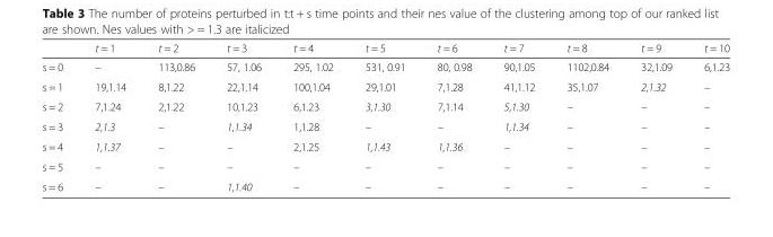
<table><thead><tr><td></td><td>t = 1</td><td>t = 2</td><td>t = 3</td><td>t = 4</td><td>t = 5</td><td>t = 6</td><td>t = 7</td><td>t = 8</td><td>t = 9</td><td>t = 10</td></tr></thead><tbody><tr><td>s = 0</td><td>–</td><td>113,0.86</td><td>57, 1.06</td><td>295, 1.02</td><td>531, 0.91</td><td>80, 0.98</td><td>90,1.05</td><td>1102,0.84</td><td>32,1.09</td><td>6,1.23</td></tr><tr><td>s = 1</td><td>19,1.14</td><td>8,1.22</td><td>22,1.14</td><td>100,1.04</td><td>29,1.01</td><td>7,1.28</td><td>41,1.12</td><td>35,1.07</td><td>2,1.32</td><td>–</td></tr><tr><td>s = 2</td><td>7,1.24</td><td>2,1.22</td><td>10,1.23</td><td>6,1.23</td><td>3,1.30</td><td>7,1.14</td><td>5,1.30</td><td>–</td><td>–</td><td>–</td></tr><tr><td>s = 3</td><td>2,1.3</td><td>–</td><td>1,1.34</td><td>1,1.28</td><td>–</td><td>–</td><td>1,1.34</td><td>–</td><td>–</td><td>–</td></tr><tr><td>s = 4</td><td>1,1.37</td><td>–</td><td>–</td><td>2,1.25</td><td>1,1.43</td><td>1,1.36</td><td>–</td><td>–</td><td>–</td><td>–</td></tr><tr><td>s = 5</td><td>–</td><td>–</td><td>–</td><td>–</td><td>–</td><td>–</td><td>–</td><td>–</td><td>–</td><td>–</td></tr><tr><td>s = 6</td><td>–</td><td>–</td><td>1,1.40</td><td>–</td><td>–</td><td>–</td><td>–</td><td>–</td><td>–</td><td>–</td></tr></tbody></table>